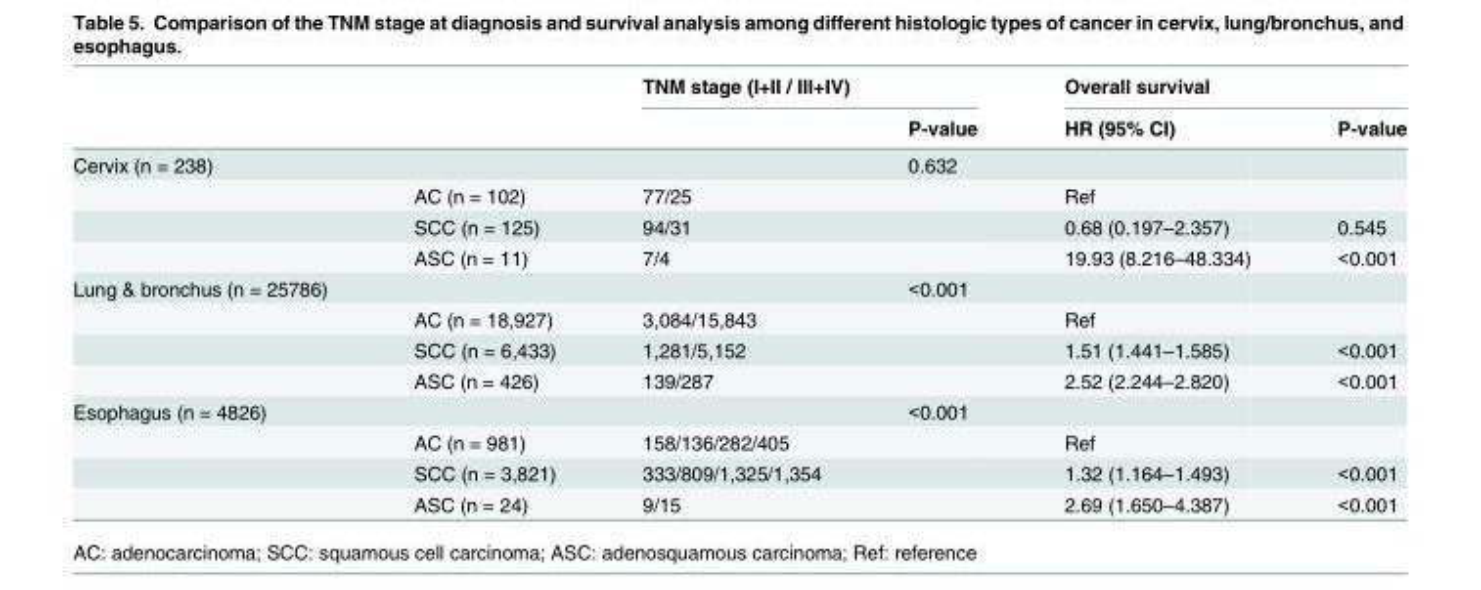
<table><thead><tr><td rowspan="2"></td><td rowspan="2"></td><td colspan="2">TNM stage (I+II / III+IV)</td><td colspan="2">Overall survival</td></tr><tr><td></td><td>P-value</td><td>HR (95% CI)</td><td>P-value</td></tr></thead><tbody><tr><td rowspan="4">Cervix (n = 238)</td><td></td><td></td><td>0.632</td><td></td><td></td></tr><tr><td>AC (n = 102)</td><td>77/25</td><td></td><td>Ref</td><td></td></tr><tr><td>SCC (n = 125)</td><td>94/31</td><td></td><td>0.68 (0.197–2.357)</td><td>0.545</td></tr><tr><td>ASC (n = 11)</td><td>7/4</td><td></td><td>19.93 (8.216–48.334)</td><td>&lt;0.001</td></tr><tr><td rowspan="4">Lung &amp; bronchus (n = 25786)</td><td></td><td></td><td>&lt;0.001</td><td></td><td></td></tr><tr><td>AC (n = 18,927)</td><td>3,084/15,843</td><td></td><td>Ref</td><td></td></tr><tr><td>SCC (n = 6,433)</td><td>1,281/5,152</td><td></td><td>1.51 (1.441–1.585)</td><td>&lt;0.001</td></tr><tr><td>ASC (n = 426)</td><td>139/287</td><td></td><td>2.52 (2.244–2.820)</td><td>&lt;0.001</td></tr><tr><td rowspan="4">Esophagus (n = 4826)</td><td></td><td></td><td>&lt;0.001</td><td></td><td></td></tr><tr><td>AC (n = 981)</td><td>158/136/282/405</td><td></td><td>Ref</td><td></td></tr><tr><td>SCC (n = 3,821)</td><td>333/809/1,325/1,354</td><td></td><td>1.32 (1.164–1.493)</td><td>&lt;0.001</td></tr><tr><td>ASC (n = 24)</td><td>9/15</td><td></td><td>2.69 (1.650–4.387)</td><td>&lt;0.001</td></tr></tbody></table>